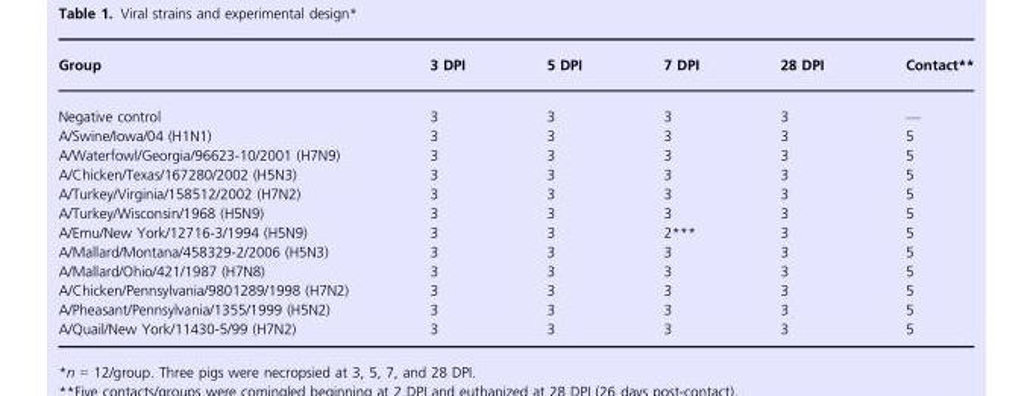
<table><thead><tr><td>Group</td><td>3 DPI</td><td>5 DPI</td><td>7 DPI</td><td>28 DPI</td><td>Contact**</td></tr></thead><tbody><tr><td>Negative control</td><td>3</td><td>3</td><td>3</td><td>3</td><td>—</td></tr><tr><td>A/Swine/Iowa/04 (H1N1)</td><td>3</td><td>3</td><td>3</td><td>3</td><td>5</td></tr><tr><td>A/Waterfowl/Georgia/96623-10/2001 (H7N9)</td><td>3</td><td>3</td><td>3</td><td>3</td><td>5</td></tr><tr><td>A/Chicken/Texas/167280/2002 (H5N3)</td><td>3</td><td>3</td><td>3</td><td>3</td><td>5</td></tr><tr><td>A/Turkey/Virginia/158512/2002 (H7N2)</td><td>3</td><td>3</td><td>3</td><td>3</td><td>5</td></tr><tr><td>A/Turkey/Wisconsin/1968 (H5N9)</td><td>3</td><td>3</td><td>3</td><td>3</td><td>5</td></tr><tr><td>A/Emu/New York/12716-3/1994 (H5N9)</td><td>3</td><td>3</td><td>2***</td><td>3</td><td>5</td></tr><tr><td>A/Mallard/Montana/458329-2/2006 (H5N3)</td><td>3</td><td>3</td><td>3</td><td>3</td><td>5</td></tr><tr><td>A/Mallard/Ohio/421/1987 (H7N8)</td><td>3</td><td>3</td><td>3</td><td>3</td><td>5</td></tr><tr><td>A/Chicken/Pennsylvania/9801289/1998 (H7N2)</td><td>3</td><td>3</td><td>3</td><td>3</td><td>5</td></tr><tr><td>A/Pheasant/Pennsylvania/1355/1999 (H5N2)</td><td>3</td><td>3</td><td>3</td><td>3</td><td>5</td></tr><tr><td>A/Quail/New York/11430-5/99 (H7N2)</td><td>3</td><td>3</td><td>3</td><td>3</td><td>5</td></tr></tbody></table>